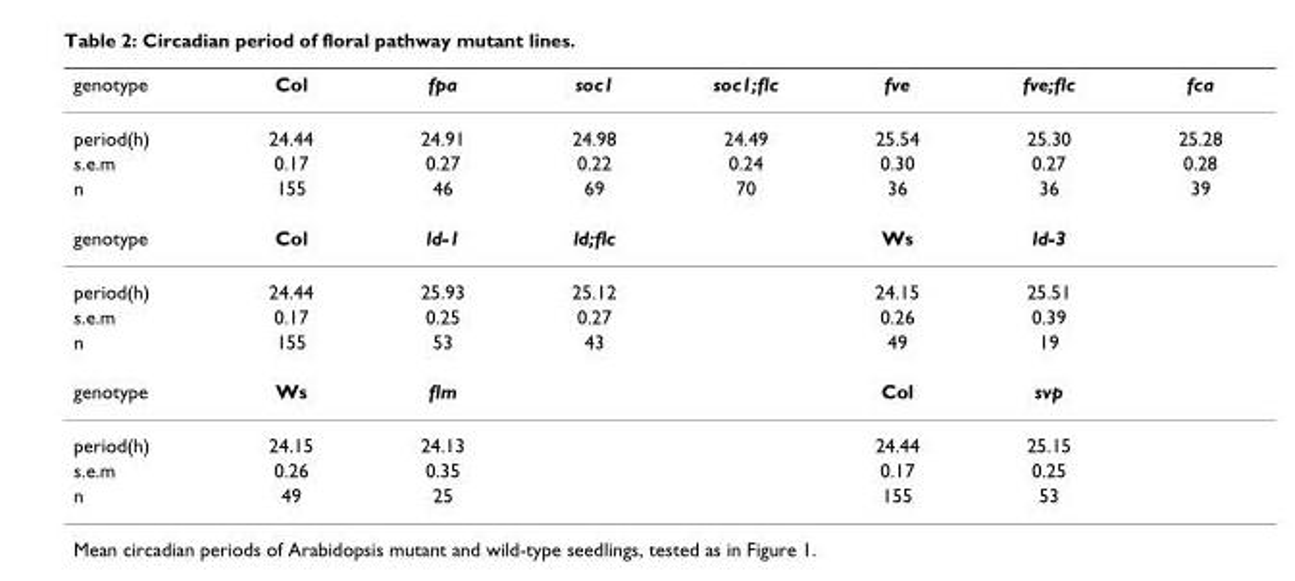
<table><thead><tr><td>genotype</td><td>Col</td><td>fpa</td><td>soc1</td><td>soc1;flc</td><td>fve</td><td>fve;flc</td><td>fca</td></tr></thead><tbody><tr><td>period(h)</td><td>24.44</td><td>24.91</td><td>24.98</td><td>24.49</td><td>25.54</td><td>25.30</td><td>25.28</td></tr><tr><td>s.e.m</td><td>0.17</td><td>0.27</td><td>0.22</td><td>0.24</td><td>0.30</td><td>0.27</td><td>0.28</td></tr><tr><td>n</td><td>155</td><td>46</td><td>69</td><td>70</td><td>36</td><td>36</td><td>39</td></tr><tr><td>genotype</td><td>Col</td><td>ld-1</td><td>ld;flc</td><td></td><td>Ws</td><td>ld-3</td><td></td></tr><tr><td>period(h)</td><td>24.44</td><td>25.93</td><td>25.12</td><td></td><td>24.15</td><td>25.51</td><td></td></tr><tr><td>s.e.m</td><td>0.17</td><td>0.25</td><td>0.27</td><td></td><td>0.26</td><td>0.39</td><td></td></tr><tr><td>n</td><td>155</td><td>53</td><td>43</td><td></td><td>49</td><td>19</td><td></td></tr><tr><td>genotype</td><td>Ws</td><td>flm</td><td></td><td></td><td>Col</td><td>svp</td><td></td></tr><tr><td>period(h)</td><td>24.15</td><td>24.13</td><td></td><td></td><td>24.44</td><td>25.15</td><td></td></tr><tr><td>s.e.m</td><td>0.26</td><td>0.35</td><td></td><td></td><td>0.17</td><td>0.25</td><td></td></tr><tr><td>n</td><td>49</td><td>25</td><td></td><td></td><td>155</td><td>53</td><td></td></tr></tbody></table>